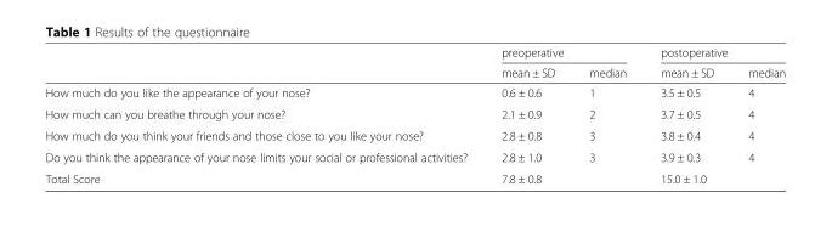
<table><thead><tr><td rowspan="2"></td><td colspan="2">preoperative</td><td colspan="2">postoperative</td></tr><tr><td>mean ± SD</td><td>median</td><td>mean ± SD</td><td>median</td></tr></thead><tbody><tr><td>How much do you like the appearance of your nose?</td><td>0.6 ± 0.6</td><td>1</td><td>3.5 ± 0.5</td><td>4</td></tr><tr><td>How much can you breathe through your nose?</td><td>2.1 ± 0.9</td><td>2</td><td>3.7 ± 0.5</td><td>4</td></tr><tr><td>How much do you think your friends and those close to you like your nose?</td><td>2.8 ± 0.8</td><td>3</td><td>3.8 ± 0.4</td><td>4</td></tr><tr><td>Do you think the appearance of your nose limits your social or professional activities?</td><td>2.8 ± 1.0</td><td>3</td><td>3.9 ± 0.3</td><td>4</td></tr><tr><td>Total Score</td><td>7.8 ± 0.8</td><td></td><td>15.0 ± 1.0</td><td></td></tr></tbody></table>